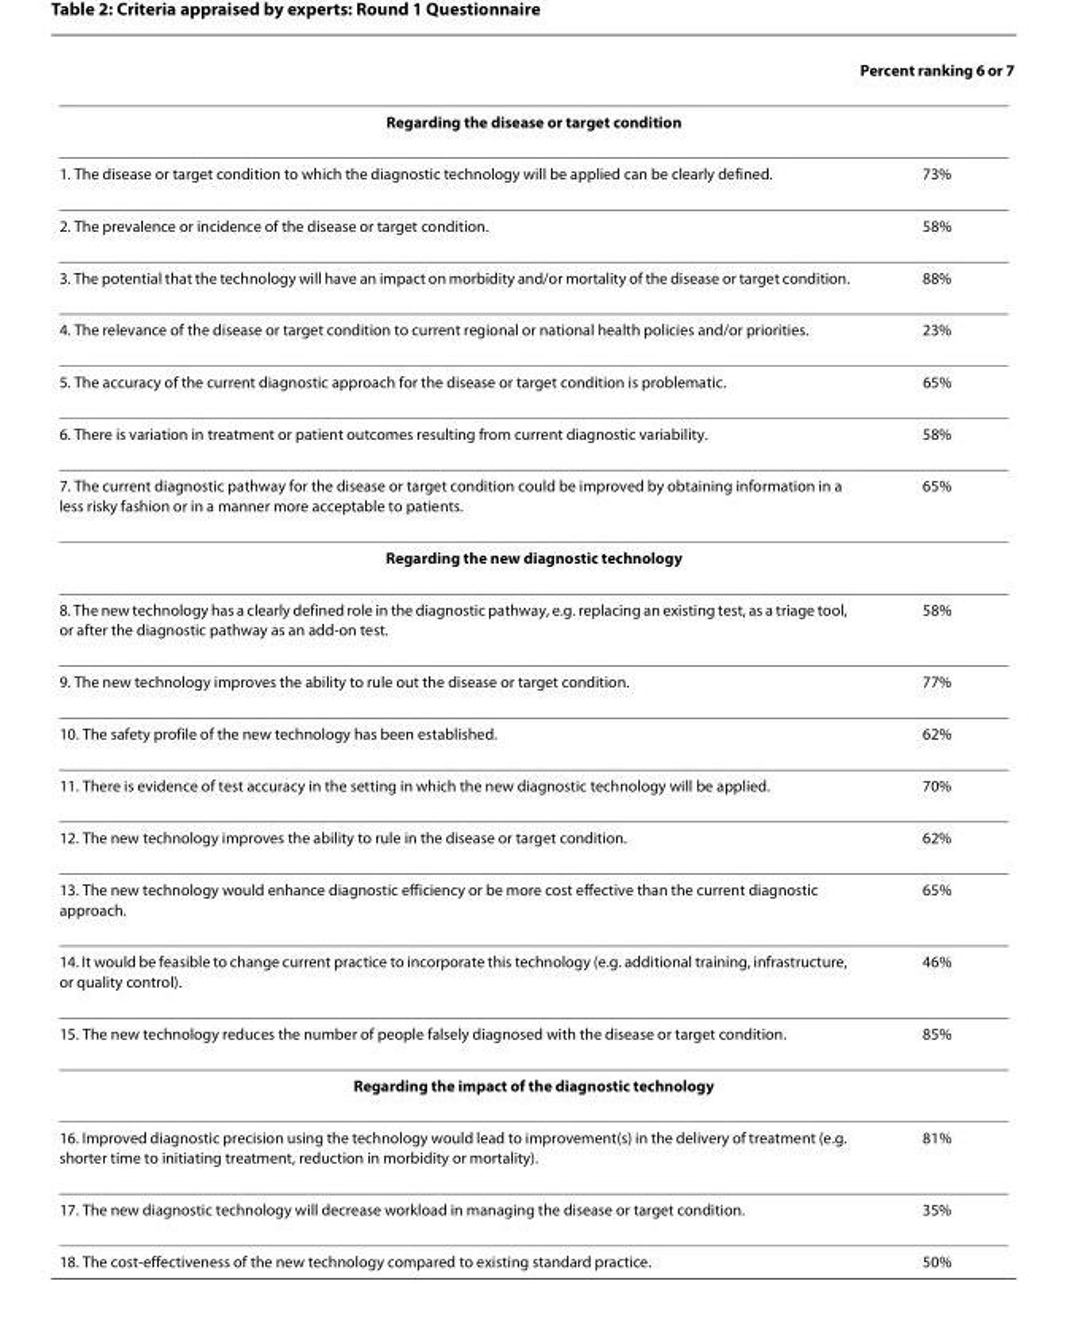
<table><thead><tr><td></td><td>Percent ranking 6 or 7</td></tr></thead><tbody><tr><td colspan="2">Regarding the disease or target condition</td></tr><tr><td>1. The disease or target condition to which the diagnostic technology will be applied can be clearly defined.</td><td>73%</td></tr><tr><td>2. The prevalence or incidence of the disease or target condition.</td><td>58%</td></tr><tr><td>3. The potential that the technology will have an impact on morbidity and/or mortality of the disease or target condition.</td><td>88%</td></tr><tr><td>4. The relevance of the disease or target condition to current regional or national health policies and/or priorities.</td><td>23%</td></tr><tr><td>5. The accuracy of the current diagnostic approach for the disease or target condition is problematic.</td><td>65%</td></tr><tr><td>6. There is variation in treatment or patient outcomes resulting from current diagnostic variability.</td><td>58%</td></tr><tr><td>7. The current diagnostic pathway for the disease or target condition could be improved by obtaining information in a less risky fashion or in a manner more acceptable to patients.</td><td>65%</td></tr><tr><td colspan="2">Regarding the new diagnostic technology</td></tr><tr><td>8. The new technology has a clearly defined role in the diagnostic pathway, e.g. replacing an existing test, as a triage tool, or after the diagnostic pathway as an add-on test.</td><td>58%</td></tr><tr><td>9. The new technology improves the ability to rule out the disease or target condition.</td><td>77%</td></tr><tr><td>10. The safety profile of the new technology has been established.</td><td>62%</td></tr><tr><td>11. There is evidence of test accuracy in the setting in which the new diagnostic technology will be applied.</td><td>70%</td></tr><tr><td>12. The new technology improves the ability to rule in the disease or target condition.</td><td>62%</td></tr><tr><td>13. The new technology would enhance diagnostic efficiency or be more cost effective than the current diagnostic approach.</td><td>65%</td></tr><tr><td>14. It would be feasible to change current practice to incorporate this technology (e.g. additional training, infrastructure, or quality control).</td><td>46%</td></tr><tr><td>15. The new technology reduces the number of people falsely diagnosed with the disease or target condition.</td><td>85%</td></tr><tr><td colspan="2">Regarding the impact of the diagnostic technology</td></tr><tr><td>16. Improved diagnostic precision using the technology would lead to improvement(s) in the delivery of treatment (e.g. shorter time to initiating treatment, reduction in morbidity or mortality).</td><td>81%</td></tr><tr><td>17. The new diagnostic technology will decrease workload in managing the disease or target condition.</td><td>35%</td></tr><tr><td>18. The cost-effectiveness of the new technology compared to existing standard practice.</td><td>50%</td></tr></tbody></table>